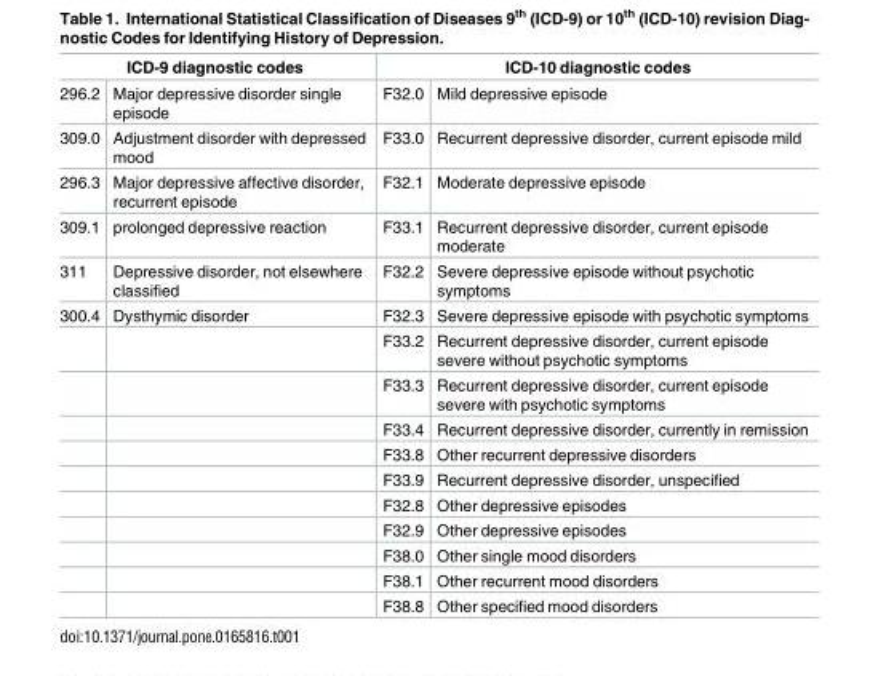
<table><thead><tr><td colspan="2">ICD-9 diagnostic codes</td><td colspan="2">ICD-10 diagnostic codes</td></tr><tr><td>296.2</td><td>Major depressive disorder single episode</td><td>F32.0</td><td>Mild depressive episode</td></tr></thead><tbody><tr><td>309.0</td><td>Adjustment disorder with depressed mood</td><td>F33.0</td><td>Recurrent depressive disorder, current episode mild</td></tr><tr><td>296.3</td><td>Major depressive affective disorder, recurrent episode</td><td>F32.1</td><td>Moderate depressive episode</td></tr><tr><td>309.1</td><td>prolonged depressive reaction</td><td>F33.1</td><td>Recurrent depressive disorder, current episode moderate</td></tr><tr><td>311</td><td>Depressive disorder, not elsewhere classified</td><td>F32.2</td><td>Severe depressive episode without psychotic symptoms</td></tr><tr><td rowspan="11">300.4</td><td>Dysthymic disorder</td><td>F32.3</td><td>Severe depressive episode with psychotic symptoms</td></tr><tr><td></td><td>F33.2</td><td>Recurrent depressive disorder, current episode severe without psychotic symptoms</td></tr><tr><td></td><td>F33.3</td><td>Recurrent depressive disorder, current episode severe with psychotic symptoms</td></tr><tr><td></td><td>F33.4</td><td>Recurrent depressive disorder, currently in remission</td></tr><tr><td></td><td>F33.8</td><td>Other recurrent depressive disorders</td></tr><tr><td></td><td>F33.9</td><td>Recurrent depressive disorder, unspecified</td></tr><tr><td></td><td>F32.8</td><td>Other depressive episodes</td></tr><tr><td></td><td>F32.9</td><td>Other depressive episodes</td></tr><tr><td></td><td>F38.0</td><td>Other single mood disorders</td></tr><tr><td></td><td>F38.1</td><td>Other recurrent mood disorders</td></tr><tr><td></td><td>F38.8</td><td>Other specified mood disorders</td></tr></tbody></table>